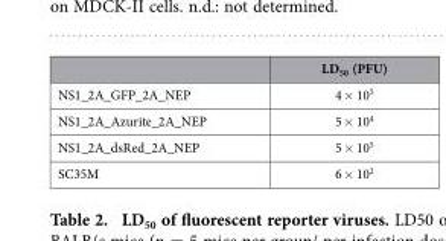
<table><thead><tr><td></td><td>LD<sub>50</sub> (PFU)</td></tr></thead><tbody><tr><td>NS1_2A_GFP_2A_NEP</td><td>4 × 10<sup>5</sup></td></tr><tr><td>NS1_2A_Azurite_2A_NEP</td><td>5 × 10<sup>4</sup></td></tr><tr><td>NS1_2A_dsRed_2A_NEP</td><td>5 × 10<sup>5</sup></td></tr><tr><td>SC35M</td><td>6 × 10<sup>2</sup></td></tr></tbody></table>